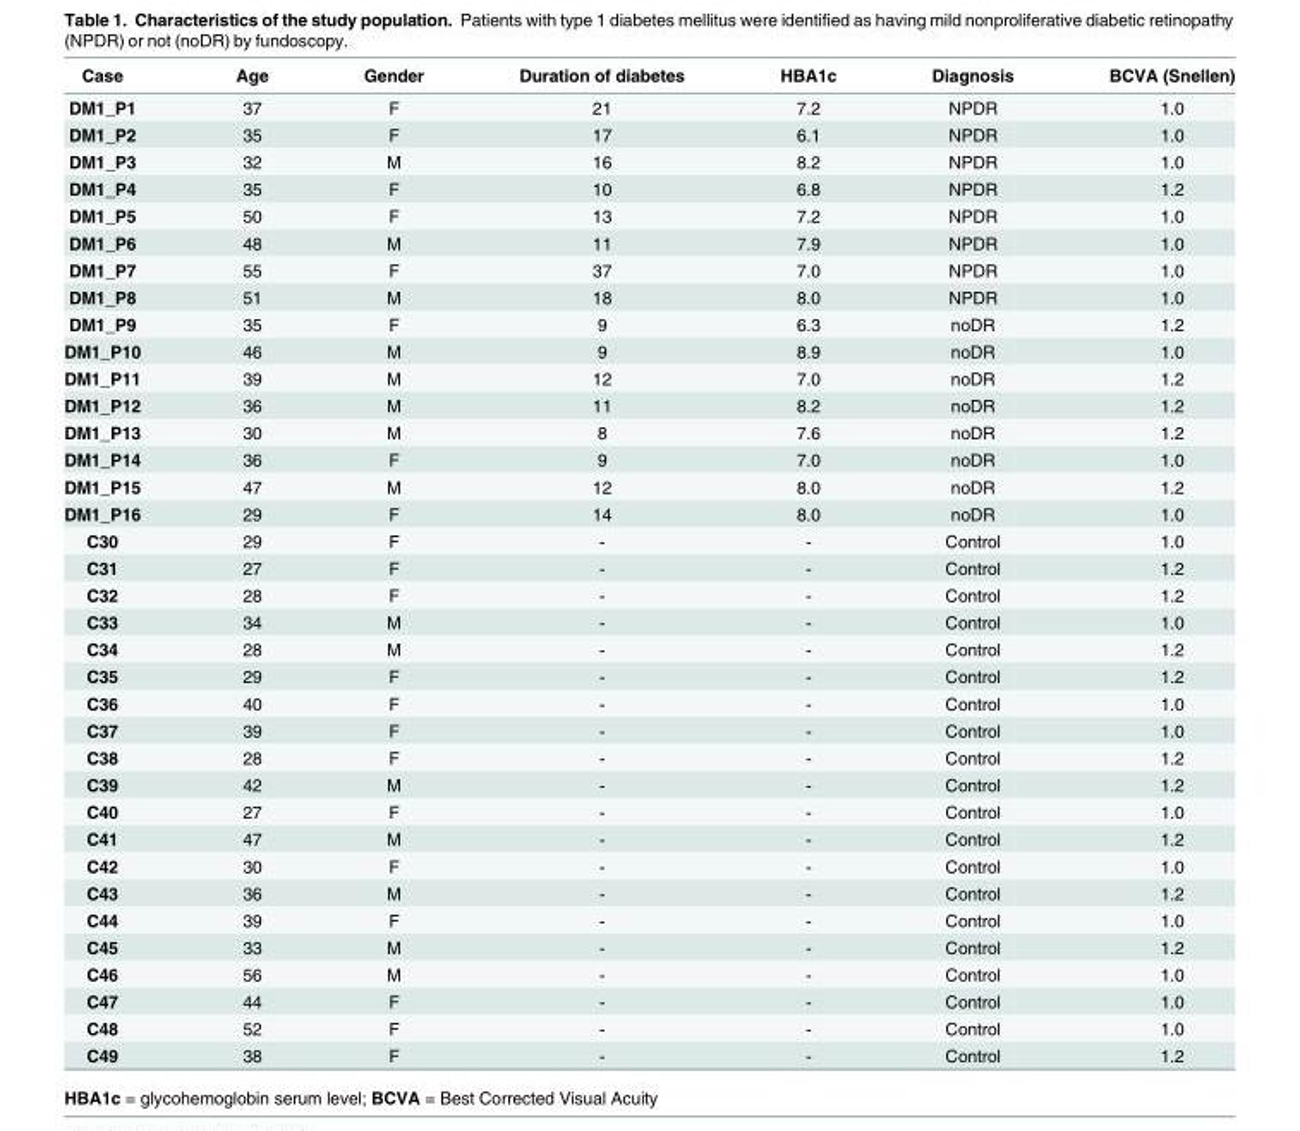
<table><thead><tr><td>Case</td><td>Age</td><td>Gender</td><td>Duration of diabetes</td><td>HBA1c</td><td>Diagnosis</td><td>BCVA (Snellen)</td></tr></thead><tbody><tr><td>DM1_P1</td><td>37</td><td>F</td><td>21</td><td>7.2</td><td>NPDR</td><td>1.0</td></tr><tr><td>DM1_P2</td><td>35</td><td>F</td><td>17</td><td>6.1</td><td>NPDR</td><td>1.0</td></tr><tr><td>DM1_P3</td><td>32</td><td>M</td><td>16</td><td>8.2</td><td>NPDR</td><td>1.0</td></tr><tr><td>DM1_P4</td><td>35</td><td>F</td><td>10</td><td>6.8</td><td>NPDR</td><td>1.2</td></tr><tr><td>DM1_P5</td><td>50</td><td>F</td><td>13</td><td>7.2</td><td>NPDR</td><td>1.0</td></tr><tr><td>DM1_P6</td><td>48</td><td>M</td><td>11</td><td>7.9</td><td>NPDR</td><td>1.0</td></tr><tr><td>DM1_P7</td><td>55</td><td>F</td><td>37</td><td>7.0</td><td>NPDR</td><td>1.0</td></tr><tr><td>DM1_P8</td><td>51</td><td>M</td><td>18</td><td>8.0</td><td>NPDR</td><td>1.0</td></tr><tr><td>DM1_P9</td><td>35</td><td>F</td><td>9</td><td>6.3</td><td>noDR</td><td>1.2</td></tr><tr><td>DM1_P10</td><td>46</td><td>M</td><td>9</td><td>8.9</td><td>noDR</td><td>1.0</td></tr><tr><td>DM1_P11</td><td>39</td><td>M</td><td>12</td><td>7.0</td><td>noDR</td><td>1.2</td></tr><tr><td>DM1_P12</td><td>36</td><td>M</td><td>11</td><td>8.2</td><td>noDR</td><td>1.2</td></tr><tr><td>DM1_P13</td><td>30</td><td>M</td><td>8</td><td>7.6</td><td>noDR</td><td>1.2</td></tr><tr><td>DM1_P14</td><td>36</td><td>F</td><td>9</td><td>7.0</td><td>noDR</td><td>1.0</td></tr><tr><td>DM1_P15</td><td>47</td><td>M</td><td>12</td><td>8.0</td><td>noDR</td><td>1.2</td></tr><tr><td>DM1_P16</td><td>29</td><td>F</td><td>14</td><td>8.0</td><td>noDR</td><td>1.0</td></tr><tr><td>C30</td><td>29</td><td>F</td><td>-</td><td>-</td><td>Control</td><td>1.0</td></tr><tr><td>C31</td><td>27</td><td>F</td><td>-</td><td>-</td><td>Control</td><td>1.2</td></tr><tr><td>C32</td><td>28</td><td>F</td><td>-</td><td>-</td><td>Control</td><td>1.2</td></tr><tr><td>C33</td><td>34</td><td>M</td><td>-</td><td>-</td><td>Control</td><td>1.0</td></tr><tr><td>C34</td><td>28</td><td>M</td><td>-</td><td>-</td><td>Control</td><td>1.2</td></tr><tr><td>C35</td><td>29</td><td>F</td><td>-</td><td>-</td><td>Control</td><td>1.2</td></tr><tr><td>C36</td><td>40</td><td>F</td><td>-</td><td>-</td><td>Control</td><td>1.0</td></tr><tr><td>C37</td><td>39</td><td>F</td><td>-</td><td>-</td><td>Control</td><td>1.0</td></tr><tr><td>C38</td><td>28</td><td>F</td><td>-</td><td>-</td><td>Control</td><td>1.2</td></tr><tr><td>C39</td><td>42</td><td>M</td><td>-</td><td>-</td><td>Control</td><td>1.2</td></tr><tr><td>C40</td><td>27</td><td>F</td><td>-</td><td>-</td><td>Control</td><td>1.0</td></tr><tr><td>C41</td><td>47</td><td>M</td><td>-</td><td>-</td><td>Control</td><td>1.2</td></tr><tr><td>C42</td><td>30</td><td>F</td><td>-</td><td>-</td><td>Control</td><td>1.0</td></tr><tr><td>C43</td><td>36</td><td>M</td><td>-</td><td>-</td><td>Control</td><td>1.2</td></tr><tr><td>C44</td><td>39</td><td>F</td><td>-</td><td>-</td><td>Control</td><td>1.0</td></tr><tr><td>C45</td><td>33</td><td>M</td><td>-</td><td>-</td><td>Control</td><td>1.2</td></tr><tr><td>C46</td><td>56</td><td>M</td><td>-</td><td>-</td><td>Control</td><td>1.0</td></tr><tr><td>C47</td><td>44</td><td>F</td><td>-</td><td>-</td><td>Control</td><td>1.0</td></tr><tr><td>C48</td><td>52</td><td>F</td><td>-</td><td>-</td><td>Control</td><td>1.0</td></tr><tr><td>C49</td><td>38</td><td>F</td><td>-</td><td>-</td><td>Control</td><td>1.2</td></tr></tbody></table>